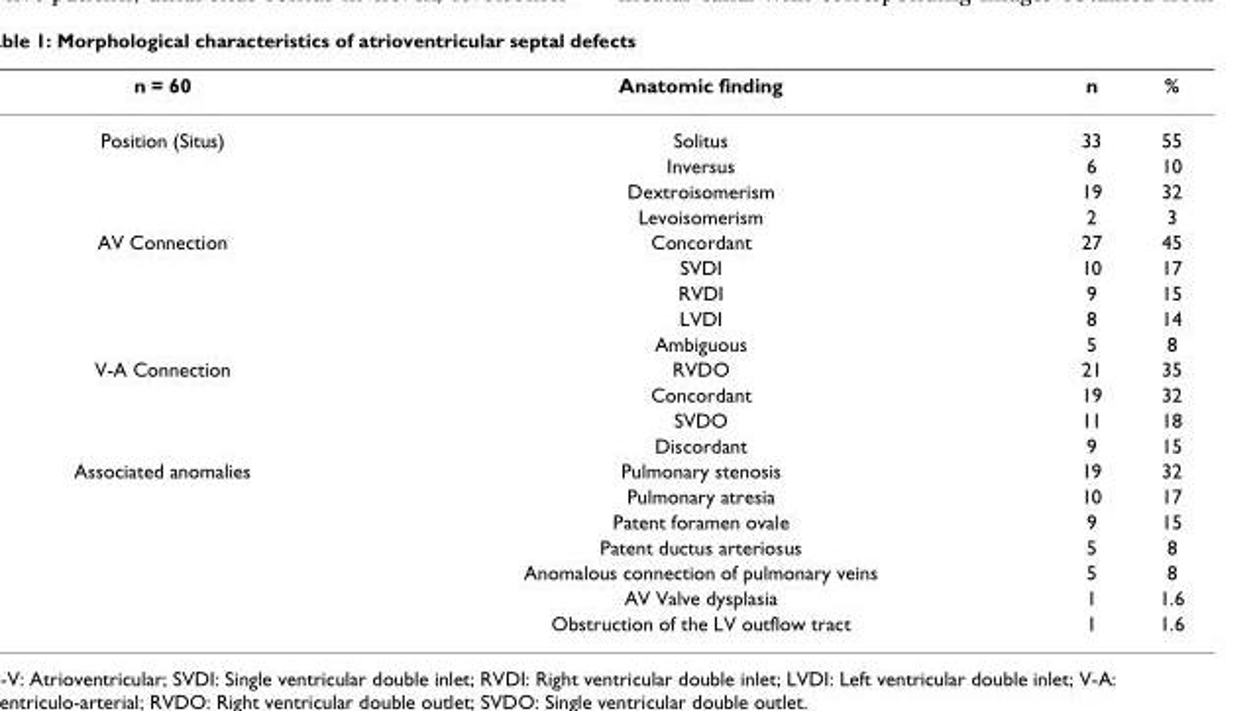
<table><thead><tr><td>n = 60</td><td>Anatomic finding</td><td>n</td><td>%</td></tr></thead><tbody><tr><td rowspan="4">Position (Situs)</td><td>Solitus</td><td>33</td><td>55</td></tr><tr><td>Inversus</td><td>6</td><td>10</td></tr><tr><td>Dextroisomerism</td><td>19</td><td>32</td></tr><tr><td>Levoisomerism</td><td>2</td><td>3</td></tr><tr><td rowspan="5">AV Connection</td><td>Concordant</td><td>27</td><td>45</td></tr><tr><td>SVDI</td><td>10</td><td>17</td></tr><tr><td>RVDI</td><td>9</td><td>15</td></tr><tr><td>LVDI</td><td>8</td><td>14</td></tr><tr><td>Ambiguous</td><td>5</td><td>8</td></tr><tr><td rowspan="4">V-A Connection</td><td>RVDO</td><td>21</td><td>35</td></tr><tr><td>Concordant</td><td>19</td><td>32</td></tr><tr><td>SVDO</td><td>11</td><td>18</td></tr><tr><td>Discordant</td><td>9</td><td>15</td></tr><tr><td rowspan="7">Associated anomalies</td><td>Pulmonary stenosis</td><td>19</td><td>32</td></tr><tr><td>Pulmonary atresia</td><td>10</td><td>17</td></tr><tr><td>Patent foramen ovale</td><td>9</td><td>15</td></tr><tr><td>Patent ductus arteriosus</td><td>5</td><td>8</td></tr><tr><td>Anomalous connection of pulmonary veins</td><td>5</td><td>8</td></tr><tr><td>AV Valve dysplasia</td><td>1</td><td>1.6</td></tr><tr><td>Obstruction of the LV outflow tract</td><td>1</td><td>1.6</td></tr></tbody></table>